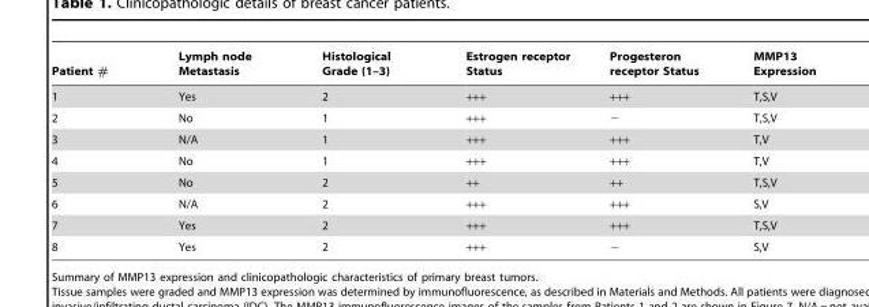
<table><thead><tr><td>Patient #</td><td>Lymph node Metastasis</td><td>Histological Grade (1–3)</td><td>Estrogen receptor Status</td><td>Progesteron receptor Status</td><td>MMP13 Expression</td></tr></thead><tbody><tr><td>1</td><td>Yes</td><td>2</td><td>+++</td><td>+++</td><td>T,S,V</td></tr><tr><td>2</td><td>No</td><td>1</td><td>+++</td><td>−</td><td>T,S,V</td></tr><tr><td>3</td><td>N/A</td><td>1</td><td>+++</td><td>+++</td><td>T,V</td></tr><tr><td>4</td><td>No</td><td>1</td><td>+++</td><td>+++</td><td>T,V</td></tr><tr><td>5</td><td>No</td><td>2</td><td>++</td><td>++</td><td>T,S,V</td></tr><tr><td>6</td><td>N/A</td><td>2</td><td>+++</td><td>+++</td><td>S,V</td></tr><tr><td>7</td><td>Yes</td><td>2</td><td>+++</td><td>+++</td><td>T,S,V</td></tr><tr><td>8</td><td>Yes</td><td>2</td><td>+++</td><td>−</td><td>S,V</td></tr></tbody></table>